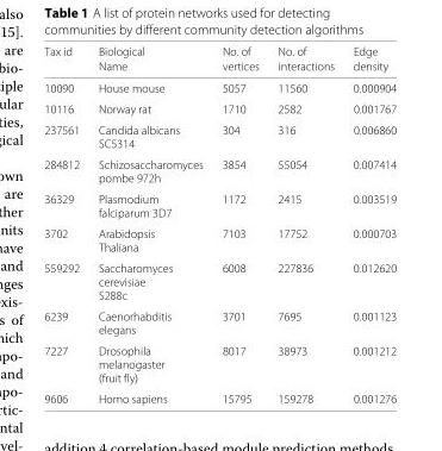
<table><thead><tr><td rowspan="2">Tax id</td><td rowspan="2">Biological Name</td><td rowspan="2">No. of vertices</td><td rowspan="2">No. of interactions</td><td rowspan="2">Edge density</td></tr><tr></tr></thead><tbody><tr><td>10090</td><td>House mouse</td><td>5057</td><td>11560</td><td>0.000904</td></tr><tr><td>10116</td><td>Norway rat</td><td>1710</td><td>2582</td><td>0.001767</td></tr><tr><td>237561</td><td>Candida albicans SC5314</td><td>304</td><td>316</td><td>0.006860</td></tr><tr><td>284812</td><td>Schizosaccharomyces pombe 972h</td><td>3854</td><td>55054</td><td>0.007414</td></tr><tr><td>36329</td><td>Plasmodium falciparum 3D7</td><td>1172</td><td>2415</td><td>0.003519</td></tr><tr><td>3702</td><td>Arabidopsis Thaliana</td><td>7103</td><td>17752</td><td>0.000703</td></tr><tr><td>559292</td><td>Saccharomyces cerevisiae S288c</td><td>6008</td><td>227836</td><td>0.012620</td></tr><tr><td>6239</td><td>Caenorhabditis elegans</td><td>3701</td><td>7695</td><td>0.001123</td></tr><tr><td>7227</td><td>Drosophila melanogaster (fruit fly)</td><td>8017</td><td>38973</td><td>0.001212</td></tr><tr><td>9606</td><td>Homo sapiens</td><td>15795</td><td>159278</td><td>0.001276</td></tr></tbody></table>